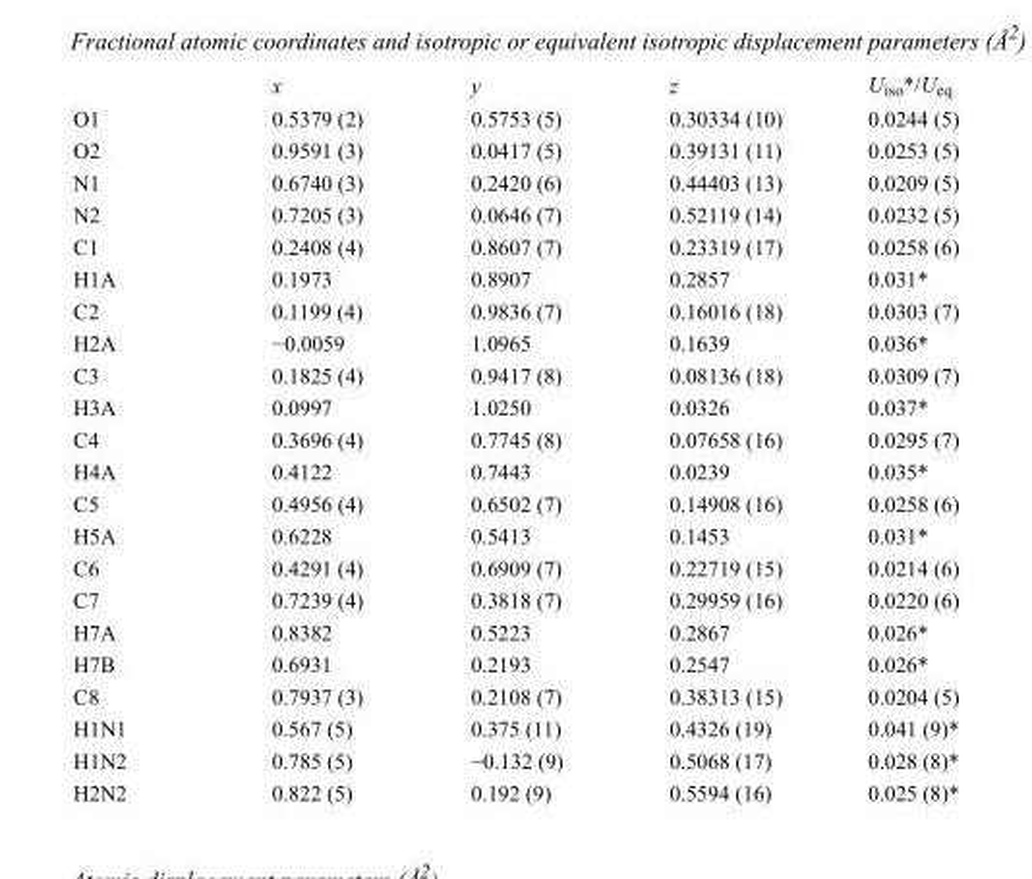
<table><thead><tr><td></td><td>x</td><td>y</td><td>z</td><td>U<sub>iso</sub>*/U<sub>eq</sub></td></tr></thead><tbody><tr><td>O1</td><td>0.5379 (2)</td><td>0.5753 (5)</td><td>0.30334 (10)</td><td>0.0244 (5)</td></tr><tr><td>O2</td><td>0.9591 (3)</td><td>0.0417 (5)</td><td>0.39131 (11)</td><td>0.0253 (5)</td></tr><tr><td>N1</td><td>0.6740 (3)</td><td>0.2420 (6)</td><td>0.44403 (13)</td><td>0.0209 (5)</td></tr><tr><td>N2</td><td>0.7205 (3)</td><td>0.0646 (7)</td><td>0.52119 (14)</td><td>0.0232 (5)</td></tr><tr><td>C1</td><td>0.2408 (4)</td><td>0.8607 (7)</td><td>0.23319 (17)</td><td>0.0258 (6)</td></tr><tr><td>H1A</td><td>0.1973</td><td>0.8907</td><td>0.2857</td><td>0.031*</td></tr><tr><td>C2</td><td>0.1199 (4)</td><td>0.9836 (7)</td><td>0.16016 (18)</td><td>0.0303 (7)</td></tr><tr><td>H2A</td><td>−0.0059</td><td>1.0965</td><td>0.1639</td><td>0.036*</td></tr><tr><td>C3</td><td>0.1825 (4)</td><td>0.9417 (8)</td><td>0.08136 (18)</td><td>0.0309 (7)</td></tr><tr><td>H3A</td><td>0.0997</td><td>1.0250</td><td>0.0326</td><td>0.037*</td></tr><tr><td>C4</td><td>0.3696 (4)</td><td>0.7745 (8)</td><td>0.07658 (16)</td><td>0.0295 (7)</td></tr><tr><td>H4A</td><td>0.4122</td><td>0.7443</td><td>0.0239</td><td>0.035*</td></tr><tr><td>C5</td><td>0.4956 (4)</td><td>0.6502 (7)</td><td>0.14908 (16)</td><td>0.0258 (6)</td></tr><tr><td>H5A</td><td>0.6228</td><td>0.5413</td><td>0.1453</td><td>0.031*</td></tr><tr><td>C6</td><td>0.4291 (4)</td><td>0.6909 (7)</td><td>0.22719 (15)</td><td>0.0214 (6)</td></tr><tr><td>C7</td><td>0.7239 (4)</td><td>0.3818 (7)</td><td>0.29959 (16)</td><td>0.0220 (6)</td></tr><tr><td>H7A</td><td>0.8382</td><td>0.5223</td><td>0.2867</td><td>0.026*</td></tr><tr><td>H7B</td><td>0.6931</td><td>0.2193</td><td>0.2547</td><td>0.026*</td></tr><tr><td>C8</td><td>0.7937 (3)</td><td>0.2108 (7)</td><td>0.38313 (15)</td><td>0.0204 (5)</td></tr><tr><td>H1N1</td><td>0.567 (5)</td><td>0.375 (11)</td><td>0.4326 (19)</td><td>0.041 (9)*</td></tr><tr><td>H1N2</td><td>0.785 (5)</td><td>−0.132 (9)</td><td>0.5068 (17)</td><td>0.028 (8)*</td></tr><tr><td>H2N2</td><td>0.822 (5)</td><td>0.192 (9)</td><td>0.5594 (16)</td><td>0.025 (8)*</td></tr></tbody></table>